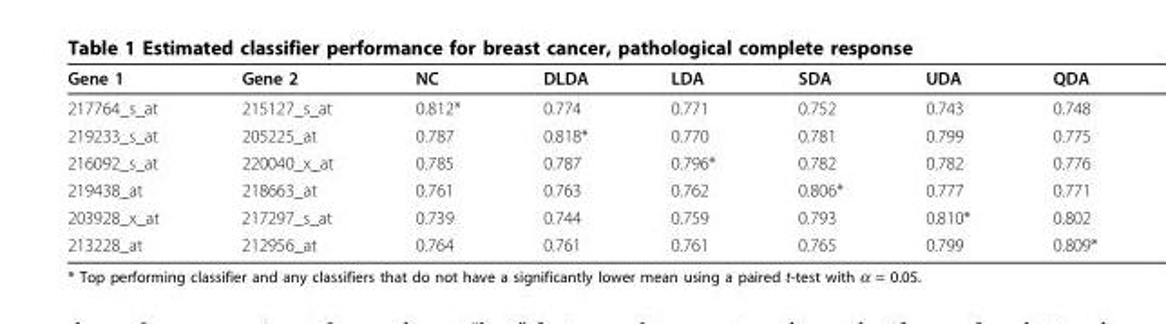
<table><thead><tr><td>Gene 1</td><td>Gene 2</td><td>NC</td><td>DLDA</td><td>LDA</td><td>SDA</td><td>UDA</td><td>QDA</td></tr></thead><tbody><tr><td>217764_s_at</td><td>215127_s_at</td><td>0.812*</td><td>0.774</td><td>0.771</td><td>0.752</td><td>0.743</td><td>0.748</td></tr><tr><td>219233_s_at</td><td>205225_at</td><td>0.787</td><td>0.818*</td><td>0.770</td><td>0.781</td><td>0.799</td><td>0.775</td></tr><tr><td>216092_s_at</td><td>220040_x_at</td><td>0.785</td><td>0.787</td><td>0.796*</td><td>0.782</td><td>0.782</td><td>0.776</td></tr><tr><td>219438_at</td><td>218663_at</td><td>0.761</td><td>0.763</td><td>0.762</td><td>0.806*</td><td>0.777</td><td>0.771</td></tr><tr><td>203928_x_at</td><td>217297_s_at</td><td>0.739</td><td>0.744</td><td>0.759</td><td>0.793</td><td>0.810*</td><td>0.802</td></tr><tr><td>213228_at</td><td>212956_at</td><td>0.764</td><td>0.761</td><td>0.761</td><td>0.765</td><td>0.799</td><td>0.809*</td></tr></tbody></table>